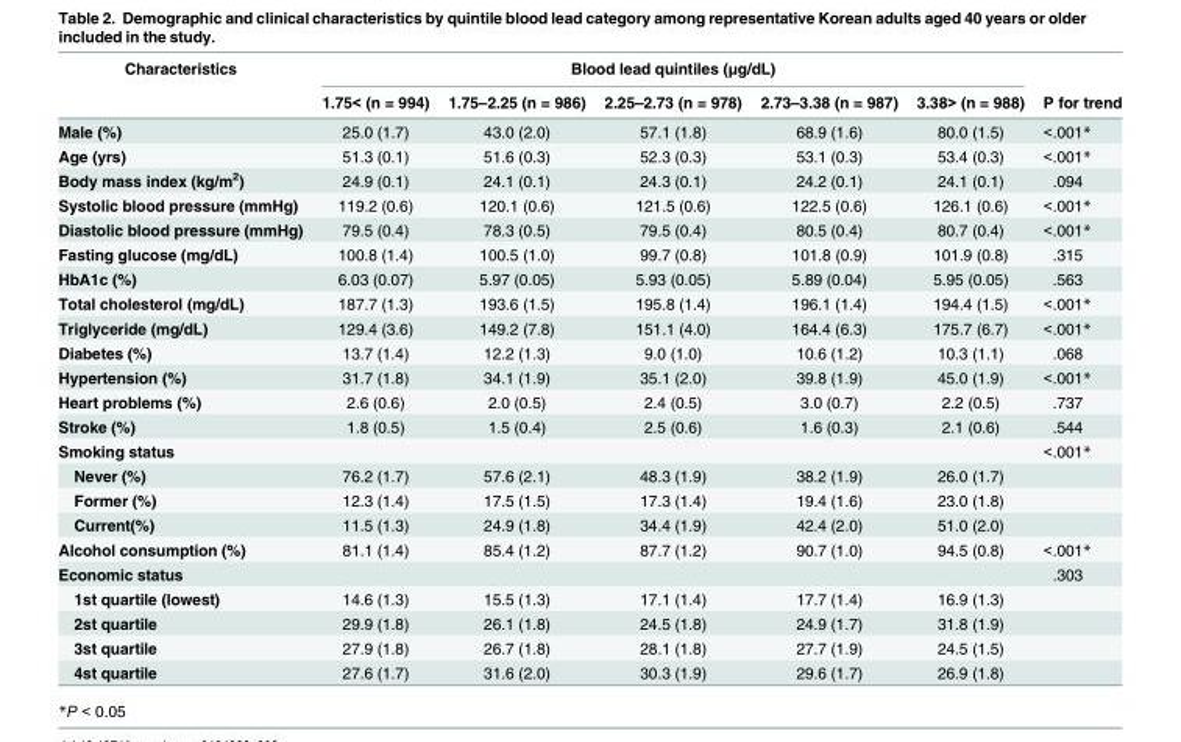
<table><thead><tr><td rowspan="2">Characteristics</td><td colspan="5">Blood lead quintiles (μg/dL)</td><td rowspan="2">P for trend</td></tr><tr><td>1.75&lt; (n = 994)</td><td>1.75–2.25 (n = 986)</td><td>2.25–2.73 (n = 978)</td><td>2.73–3.38 (n = 987)</td><td>3.38&gt; (n = 988)</td></tr></thead><tbody><tr><td>Male (%)</td><td>25.0 (1.7)</td><td>43.0 (2.0)</td><td>57.1 (1.8)</td><td>68.9 (1.6)</td><td>80.0 (1.5)</td><td>&lt;.001*</td></tr><tr><td>Age (yrs)</td><td>51.3 (0.1)</td><td>51.6 (0.3)</td><td>52.3 (0.3)</td><td>53.1 (0.3)</td><td>53.4 (0.3)</td><td>&lt;.001*</td></tr><tr><td>Body mass index (kg/m<sup>2</sup>)</td><td>24.9 (0.1)</td><td>24.1 (0.1)</td><td>24.3 (0.1)</td><td>24.2 (0.1)</td><td>24.1 (0.1)</td><td>.094</td></tr><tr><td>Systolic blood pressure (mmHg)</td><td>119.2 (0.6)</td><td>120.1 (0.6)</td><td>121.5 (0.6)</td><td>122.5 (0.6)</td><td>126.1 (0.6)</td><td>&lt;.001*</td></tr><tr><td>Diastolic blood pressure (mmHg)</td><td>79.5 (0.4)</td><td>78.3 (0.5)</td><td>79.5 (0.4)</td><td>80.5 (0.4)</td><td>80.7 (0.4)</td><td>&lt;.001*</td></tr><tr><td>Fasting glucose (mg/dL)</td><td>100.8 (1.4)</td><td>100.5 (1.0)</td><td>99.7 (0.8)</td><td>101.8 (0.9)</td><td>101.9 (0.8)</td><td>.315</td></tr><tr><td>HbA1c (%)</td><td>6.03 (0.07)</td><td>5.97 (0.05)</td><td>5.93 (0.05)</td><td>5.89 (0.04)</td><td>5.95 (0.05)</td><td>.563</td></tr><tr><td>Total cholesterol (mg/dL)</td><td>187.7 (1.3)</td><td>193.6 (1.5)</td><td>195.8 (1.4)</td><td>196.1 (1.4)</td><td>194.4 (1.5)</td><td>&lt;.001*</td></tr><tr><td>Triglyceride (mg/dL)</td><td>129.4 (3.6)</td><td>149.2 (7.8)</td><td>151.1 (4.0)</td><td>164.4 (6.3)</td><td>175.7 (6.7)</td><td>&lt;.001*</td></tr><tr><td>Diabetes (%)</td><td>13.7 (1.4)</td><td>12.2 (1.3)</td><td>9.0 (1.0)</td><td>10.6 (1.2)</td><td>10.3 (1.1)</td><td>.068</td></tr><tr><td>Hypertension (%)</td><td>31.7 (1.8)</td><td>34.1 (1.9)</td><td>35.1 (2.0)</td><td>39.8 (1.9)</td><td>45.0 (1.9)</td><td>&lt;.001*</td></tr><tr><td>Heart problems (%)</td><td>2.6 (0.6)</td><td>2.0 (0.5)</td><td>2.4 (0.5)</td><td>3.0 (0.7)</td><td>2.2 (0.5)</td><td>.737</td></tr><tr><td>Stroke (%)</td><td>1.8 (0.5)</td><td>1.5 (0.4)</td><td>2.5 (0.6)</td><td>1.6 (0.3)</td><td>2.1 (0.6)</td><td>.544</td></tr><tr><td>Smoking status</td><td></td><td></td><td></td><td></td><td></td><td>&lt;.001*</td></tr><tr><td>Never (%)</td><td>76.2 (1.7)</td><td>57.6 (2.1)</td><td>48.3 (1.9)</td><td>38.2 (1.9)</td><td>26.0 (1.7)</td><td></td></tr><tr><td>Former (%)</td><td>12.3 (1.4)</td><td>17.5 (1.5)</td><td>17.3 (1.4)</td><td>19.4 (1.6)</td><td>23.0 (1.8)</td><td></td></tr><tr><td>Current(%)</td><td>11.5 (1.3)</td><td>24.9 (1.8)</td><td>34.4 (1.9)</td><td>42.4 (2.0)</td><td>51.0 (2.0)</td><td></td></tr><tr><td>Alcohol consumption (%)</td><td>81.1 (1.4)</td><td>85.4 (1.2)</td><td>87.7 (1.2)</td><td>90.7 (1.0)</td><td>94.5 (0.8)</td><td>&lt;.001*</td></tr><tr><td>Economic status</td><td></td><td></td><td></td><td></td><td></td><td>.303</td></tr><tr><td>1st quartile (lowest)</td><td>14.6 (1.3)</td><td>15.5 (1.3)</td><td>17.1 (1.4)</td><td>17.7 (1.4)</td><td>16.9 (1.3)</td><td></td></tr><tr><td>2st quartile</td><td>29.9 (1.8)</td><td>26.1 (1.8)</td><td>24.5 (1.8)</td><td>24.9 (1.7)</td><td>31.8 (1.9)</td><td></td></tr><tr><td>3st quartile</td><td>27.9 (1.8)</td><td>26.7 (1.8)</td><td>28.1 (1.8)</td><td>27.7 (1.9)</td><td>24.5 (1.5)</td><td></td></tr><tr><td>4st quartile</td><td>27.6 (1.7)</td><td>31.6 (2.0)</td><td>30.3 (1.9)</td><td>29.6 (1.7)</td><td>26.9 (1.8)</td><td></td></tr></tbody></table>